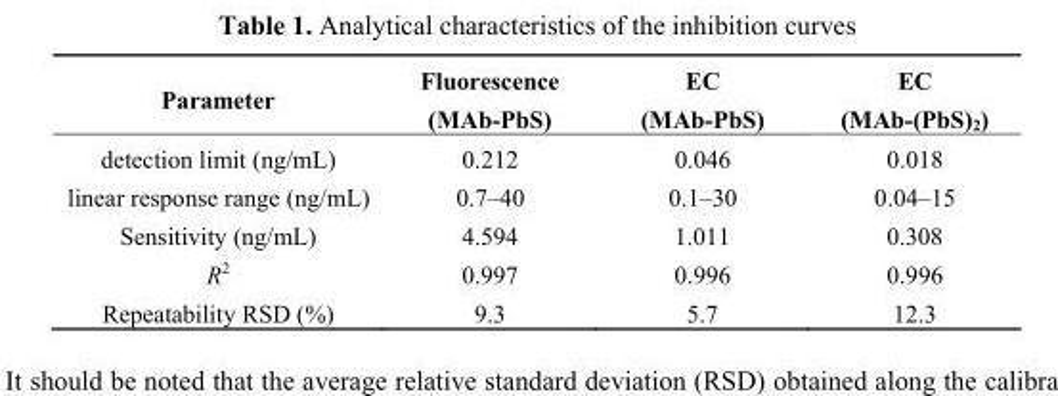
<table><thead><tr><td>Parameter</td><td>Fluorescence (MAb-PbS)</td><td>EC (MAb-PbS)</td><td>EC (MAb-(PbS)<sub>2</sub>)</td></tr></thead><tbody><tr><td>detection limit (ng/mL)</td><td>0.212</td><td>0.046</td><td>0.018</td></tr><tr><td>linear response range (ng/mL)</td><td>0.7–40</td><td>0.1–30</td><td>0.04–15</td></tr><tr><td>Sensitivity (ng/mL)</td><td>4.594</td><td>1.011</td><td>0.308</td></tr><tr><td>R<sup>2</sup></td><td>0.997</td><td>0.996</td><td>0.996</td></tr><tr><td>Repeatability RSD (%)</td><td>9.3</td><td>5.7</td><td>12.3</td></tr></tbody></table>